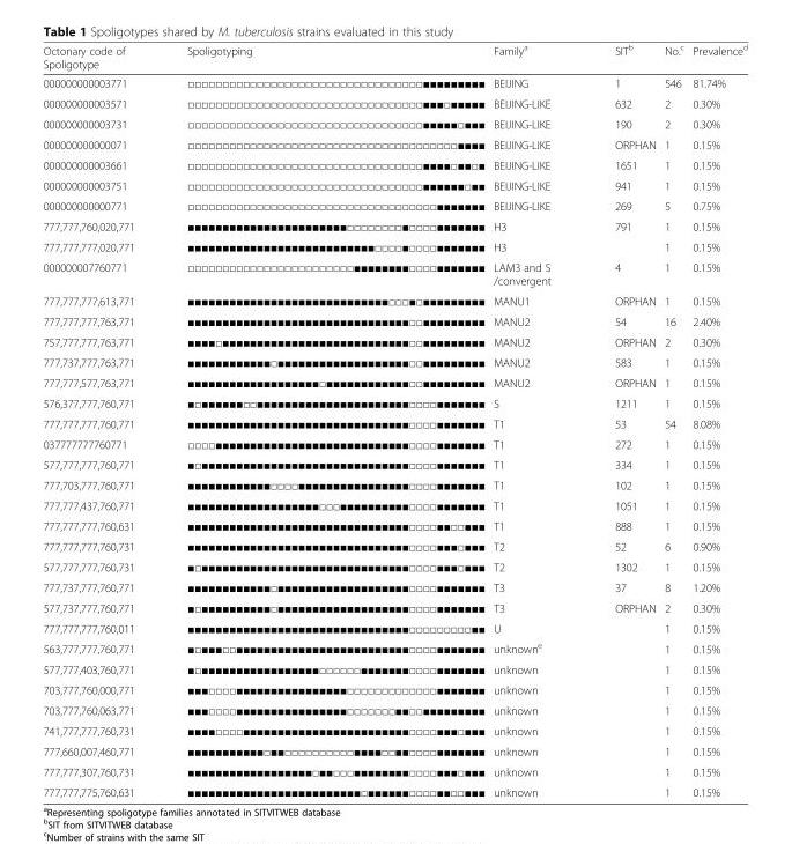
<table><thead><tr><td>Octonary code of Spoligotype</td><td>Spoligotyping</td><td>Family<sup>a</sup></td><td>SIT<sup>b</sup></td><td>No.<sup>c</sup></td><td>Prevalence<sup>d</sup></td></tr></thead><tbody><tr><td>000000000003771</td><td>□□□□□□□□□□□□□□□□□□□□□□□□□□□□□□□□□□■■■■■■■■■</td><td>BEIJING</td><td>1</td><td>546</td><td>81.74%</td></tr><tr><td>000000000003571</td><td>□□□□□□□□□□□□□□□□□□□□□□□□□□□□□□□□□□■■■□■■■■■</td><td>BEIJING-LIKE</td><td>632</td><td>2</td><td>0.30%</td></tr><tr><td>000000000003731</td><td>□□□□□□□□□□□□□□□□□□□□□□□□□□□□□□□□□□■■■■■□■■■</td><td>BEIJING-LIKE</td><td>190</td><td>2</td><td>0.30%</td></tr><tr><td>000000000000071</td><td>□□□□□□□□□□□□□□□□□□□□□□□□□□□□□□□□□□□□□□□■■■■</td><td>BEIJING-LIKE</td><td>ORPHAN</td><td>1</td><td>0.15%</td></tr><tr><td>000000000003661</td><td>□□□□□□□□□□□□□□□□□□□□□□□□□□□□□□□□□□■■■■□■■□■</td><td>BEIJING-LIKE</td><td>1651</td><td>1</td><td>0.15%</td></tr><tr><td>000000000003751</td><td>□□□□□□□□□□□□□□□□□□□□□□□□□□□□□□□□□□■■■■■■□■■</td><td>BEIJING-LIKE</td><td>941</td><td>1</td><td>0.15%</td></tr><tr><td>000000000000771</td><td>□□□□□□□□□□□□□□□□□□□□□□□□□□□□□□□□□□□□■■■■■■■</td><td>BEIJING-LIKE</td><td>269</td><td>5</td><td>0.75%</td></tr><tr><td>777,777,760,020,771</td><td>■■■■■■■■■■■■■■■■■■■■■■■□□□□□□□□■□□□□■■■■■■■</td><td>H3</td><td>791</td><td>1</td><td>0.15%</td></tr><tr><td>777,777,777,020,771</td><td>■■■■■■■■■■■■■■■■■■■■■■■■■■■□□□□■□□□□■■■■■■■</td><td>H3</td><td></td><td>1</td><td>0.15%</td></tr><tr><td>000000007760771</td><td>□□□□□□□□□□□□□□□□□□□□□□□□■■■■■■■■□□□□■■■■■■■</td><td>LAM3 and S /convergent</td><td>4</td><td>1</td><td>0.15%</td></tr><tr><td>777,777,777,613,771</td><td>■■■■■■■■■■■■■■■■■■■■■■■■■■■■■□□□■□■■■■■■■■■</td><td>MANU1</td><td>ORPHAN</td><td>1</td><td>0.15%</td></tr><tr><td>777,777,777,763,771</td><td>■■■■■■■■■■■■■■■■■■■■■■■■■■■■■■■■□□■■■■■■■■■</td><td>MANU2</td><td>54</td><td>16</td><td>2.40%</td></tr><tr><td>757,777,777,763,771</td><td>■■■■□■■■■■■■■■■■■■■■■■■■■■■■■■■■□□■■■■■■■■■</td><td>MANU2</td><td>ORPHAN</td><td>2</td><td>0.30%</td></tr><tr><td>777,737,777,763,771</td><td>■■■■■■■■■■■■□■■■■■■■■■■■■■■■■■■■□□■■■■■■■■■</td><td>MANU2</td><td>583</td><td>1</td><td>0.15%</td></tr><tr><td>777,777,577,763,771</td><td>■■■■■■■■■■■■■■■■■■■□■■■■■■■■■■■■□□■■■■■■■■■</td><td>MANU2</td><td>ORPHAN</td><td>1</td><td>0.15%</td></tr><tr><td>576,377,777,760,771</td><td>■□■■■■■■□□■■■■■■■■■■■■■■■■■■■■■■□□□□■■■■■■■</td><td>S</td><td>1211</td><td>1</td><td>0.15%</td></tr><tr><td>777,777,777,760,771</td><td>■■■■■■■■■■■■■■■■■■■■■■■■■■■■■■■■□□□□■■■■■■■</td><td>T1</td><td>53</td><td>54</td><td>8.08%</td></tr><tr><td>037777777760771</td><td>□□□□■■■■■■■■■■■■■■■■■■■■■■■■■■■■□□□□■■■■■■■</td><td>T1</td><td>272</td><td>1</td><td>0.15%</td></tr><tr><td>577,777,777,760,771</td><td>■□■■■■■■■■■■■■■■■■■■■■■■■■■■■■■■□□□□■■■■■■■</td><td>T1</td><td>334</td><td>1</td><td>0.15%</td></tr><tr><td>777,703,777,760,771</td><td>■■■■■■■■■■■■□□□□■■■■■■■■■■■■■■■■□□□□■■■■■■■</td><td>T1</td><td>102</td><td>1</td><td>0.15%</td></tr><tr><td>777,777,437,760,771</td><td>■■■■■■■■■■■■■■■■■■■□□□■■■■■■■■■■□□□□■■■■■■■</td><td>T1</td><td>1051</td><td>1</td><td>0.15%</td></tr><tr><td>777,777,777,760,631</td><td>■■■■■■■■■■■■■■■■■■■■■■■■■■■■■■■■□□□□■■□□■■■</td><td>T1</td><td>888</td><td>1</td><td>0.15%</td></tr><tr><td>777,777,777,760,731</td><td>■■■■■■■■■■■■■■■■■■■■■■■■■■■■■■■■□□□□■■■□■■■</td><td>T2</td><td>52</td><td>6</td><td>0.90%</td></tr><tr><td>577,777,777,760,731</td><td>■□■■■■■■■■■■■■■■■■■■■■■■■■■■■■■■□□□□■■■□■■■</td><td>T2</td><td>1302</td><td>1</td><td>0.15%</td></tr><tr><td>777,737,777,760,771</td><td>■■■■■■■■■■■■□■■■■■■■■■■■■■■■■■■■□□□□■■■■■■■</td><td>T3</td><td>37</td><td>8</td><td>1.20%</td></tr><tr><td>577,737,777,760,771</td><td>■□■■■■■■■■■■□■■■■■■■■■■■■■■■■■■■□□□□■■■■■■■</td><td>T3</td><td>ORPHAN</td><td>2</td><td>0.30%</td></tr><tr><td>777,777,777,760,011</td><td>■■■■■■■■■■■■■■■■■■■■■■■■■■■■■■■■□□□□□□□□□■■</td><td>U</td><td></td><td>1</td><td>0.15%</td></tr><tr><td>563,777,777,760,771</td><td>■□■■■□□■■■■■■■■■■■■■■■■■■■■■■■■■□□□□■■■■■■■</td><td>unknown<sup>e</sup></td><td></td><td>1</td><td>0.15%</td></tr><tr><td>577,777,403,760,771</td><td>■□■■■■■■■■■■■■■■■■■□□□□□□■■■■■■■□□□□■■■■■■■</td><td>unknown</td><td></td><td>1</td><td>0.15%</td></tr><tr><td>703,777,760,000,771</td><td>■■■□□□□■■■■■■■■■■■■■■■■□□□□□□□□□□□□□■■■■■■■</td><td>unknown</td><td></td><td>1</td><td>0.15%</td></tr><tr><td>703,777,760,063,771</td><td>■■■□□□□■■■■■■■■■■■■■■■■□□□□□□□■■□□■■■■■■■■■</td><td>unknown</td><td></td><td>1</td><td>0.15%</td></tr><tr><td>741,777,777,760,731</td><td>■■■■□□□□■■■■■■■■■■■■■■■■■■■■■■■■□□□□■■■□■■■</td><td>unknown</td><td></td><td>1</td><td>0.15%</td></tr><tr><td>777,660,007,460,771</td><td>■■■■■■■■■■■□■■□□□□□□□□□□■■■■□□■■□□□□■■■■■■■</td><td>unknown</td><td></td><td>1</td><td>0.15%</td></tr><tr><td>777,777,307,760,731</td><td>■■■■■■■■■■■■■■■■■■□■■□□□■■■■■■■■□□□□■■■□■■■</td><td>unknown</td><td></td><td>1</td><td>0.15%</td></tr><tr><td>777,777,775,760,631</td><td>■■■■■■■■■■■■■■■■■■■■■■■■■□■■■■■■□□□□■■□□■■■</td><td>unknown</td><td></td><td>1</td><td>0.15%</td></tr></tbody></table>